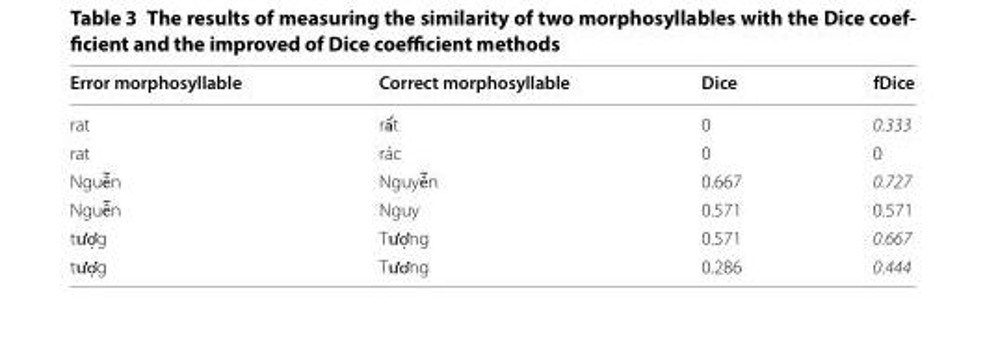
<table><thead><tr><td>Error morphosyllable</td><td>Correct morphosyllable</td><td>Dice</td><td>fDice</td></tr></thead><tbody><tr><td>rat</td><td>rất</td><td>0</td><td>0.333</td></tr><tr><td>rat</td><td>rác</td><td>0</td><td>0</td></tr><tr><td>Nguễn</td><td>Nguyễn</td><td>0.667</td><td>0.727</td></tr><tr><td>Nguễn</td><td>Nguy</td><td>0.571</td><td>0.571</td></tr><tr><td>tượg</td><td>Tượng</td><td>0.571</td><td>0.667</td></tr><tr><td>tượg</td><td>Tương</td><td>0.286</td><td>0.444</td></tr></tbody></table>